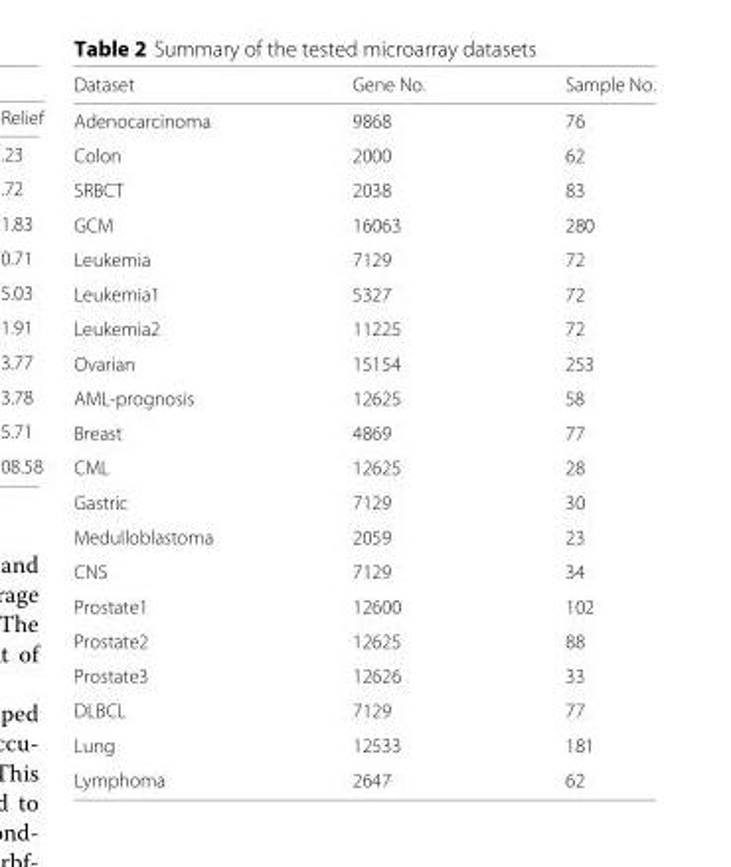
<table><thead><tr><td>Dataset</td><td>Gene No.</td><td>Sample No.</td></tr></thead><tbody><tr><td>Adenocarcinoma</td><td>9868</td><td>76</td></tr><tr><td>Colon</td><td>2000</td><td>62</td></tr><tr><td>SRBCT</td><td>2038</td><td>83</td></tr><tr><td>GCM</td><td>16063</td><td>280</td></tr><tr><td>Leukemia</td><td>7129</td><td>72</td></tr><tr><td>Leukemia1</td><td>5327</td><td>72</td></tr><tr><td>Leukemia2</td><td>11225</td><td>72</td></tr><tr><td>Ovarian</td><td>15154</td><td>253</td></tr><tr><td>AML-prognosis</td><td>12625</td><td>58</td></tr><tr><td>Breast</td><td>4869</td><td>77</td></tr><tr><td>CML</td><td>12625</td><td>28</td></tr><tr><td>Gastric</td><td>7129</td><td>30</td></tr><tr><td>Medulloblastoma</td><td>2059</td><td>23</td></tr><tr><td>CNS</td><td>7129</td><td>34</td></tr><tr><td>Prostate1</td><td>12600</td><td>102</td></tr><tr><td>Prostate2</td><td>12625</td><td>88</td></tr><tr><td>Prostate3</td><td>12626</td><td>33</td></tr><tr><td>DLBCL</td><td>7129</td><td>77</td></tr><tr><td>Lung</td><td>12533</td><td>181</td></tr><tr><td>Lymphoma</td><td>2647</td><td>62</td></tr></tbody></table>